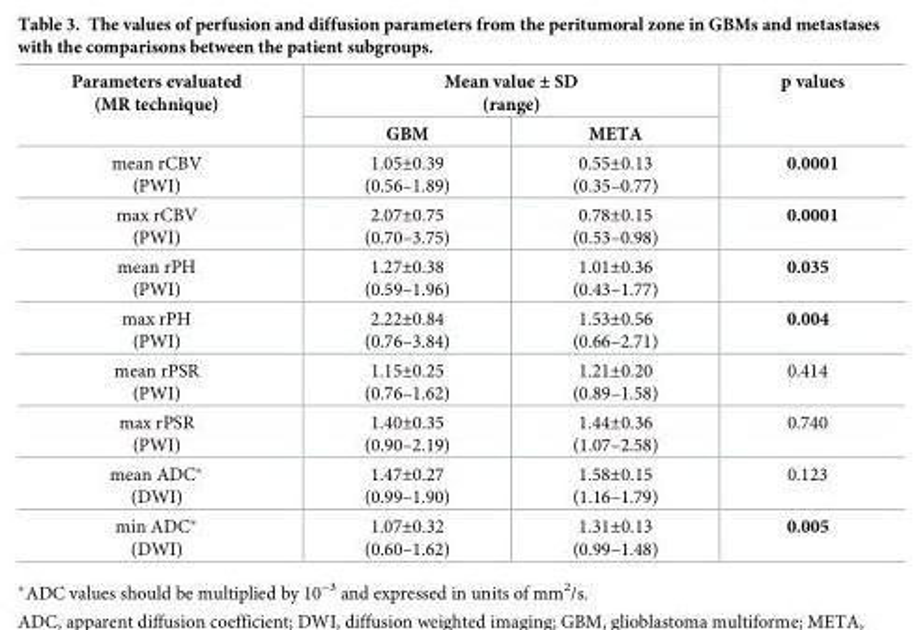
<table><thead><tr><td rowspan="2">Parameters evaluated (MR technique)</td><td colspan="2">Mean value ± SD (range)</td><td rowspan="2">p values</td></tr><tr><td>GBM</td><td>META</td></tr></thead><tbody><tr><td>mean rCBV (PWI)</td><td>1.05±0.39 (0.56–1.89)</td><td>0.55±0.13 (0.35–0.77)</td><td>0.0001</td></tr><tr><td>max rCBV (PWI)</td><td>2.07±0.75 (0.70–3.75)</td><td>0.78±0.15 (0.53–0.98)</td><td>0.0001</td></tr><tr><td>mean rPH (PWI)</td><td>1.27±0.38 (0.59–1.96)</td><td>1.01±0.36 (0.43–1.77)</td><td>0.035</td></tr><tr><td>max rPH (PWI)</td><td>2.22±0.84 (0.76–3.84)</td><td>1.53±0.56 (0.66–2.71)</td><td>0.004</td></tr><tr><td>mean rPSR (PWI)</td><td>1.15±0.25 (0.76–1.62)</td><td>1.21±0.20 (0.89–1.58)</td><td>0.414</td></tr><tr><td>max rPSR (PWI)</td><td>1.40±0.35 (0.90–2.19)</td><td>1.44±0.36 (1.07–2.58)</td><td>0.740</td></tr><tr><td>mean ADC* (DWI)</td><td>1.47±0.27 (0.99–1.90)</td><td>1.58±0.15 (1.16–1.79)</td><td>0.123</td></tr><tr><td>min ADC* (DWI)</td><td>1.07±0.32 (0.60–1.62)</td><td>1.31±0.13 (0.99–1.48)</td><td>0.005</td></tr></tbody></table>